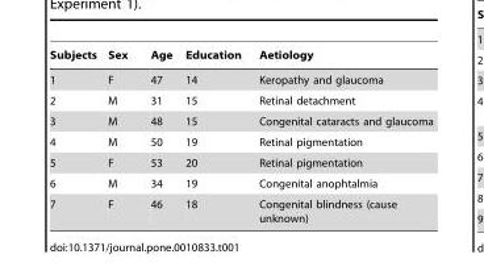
<table><thead><tr><td>Subjects</td><td>Sex</td><td>Age</td><td>Education</td><td>Aetiology</td></tr></thead><tbody><tr><td>1</td><td>F</td><td>47</td><td>14</td><td>Keropathy and glaucoma</td></tr><tr><td>2</td><td>M</td><td>31</td><td>15</td><td>Retinal detachment</td></tr><tr><td>3</td><td>M</td><td>48</td><td>15</td><td>Congenital cataracts and glaucoma</td></tr><tr><td>4</td><td>M</td><td>50</td><td>19</td><td>Retinal pigmentation</td></tr><tr><td>5</td><td>F</td><td>53</td><td>20</td><td>Retinal pigmentation</td></tr><tr><td>6</td><td>M</td><td>34</td><td>19</td><td>Congenital anophtalmia</td></tr><tr><td>7</td><td>F</td><td>46</td><td>18</td><td>Congenital blindness (cause unknown)</td></tr></tbody></table>